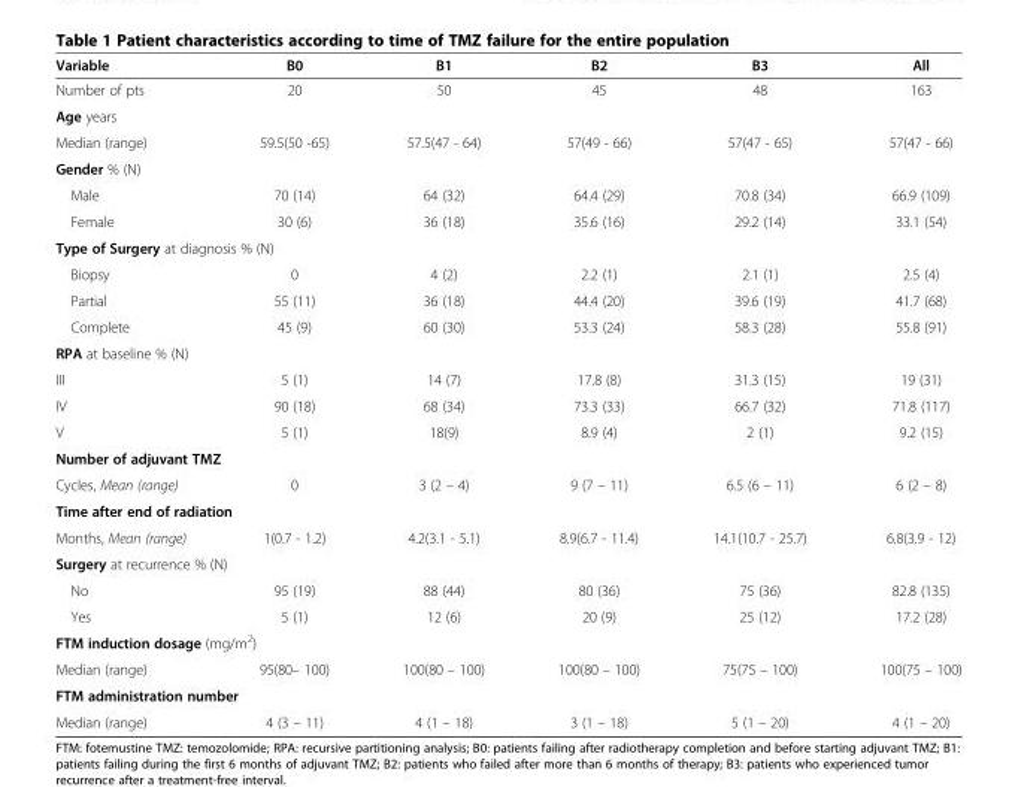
<table><thead><tr><td>Variable</td><td>B0</td><td>B1</td><td>B2</td><td>B3</td><td>All</td></tr></thead><tbody><tr><td>Number of pts</td><td>20</td><td>50</td><td>45</td><td>48</td><td>163</td></tr><tr><td colspan="6">Age years</td></tr><tr><td>Median (range)</td><td>59.5(50 -65)</td><td>57.5(47 - 64)</td><td>57(49 - 66)</td><td>57(47 - 65)</td><td>57(47 - 66)</td></tr><tr><td colspan="6">Gender % (N)</td></tr><tr><td>Male</td><td>70 (14)</td><td>64 (32)</td><td>64.4 (29)</td><td>70.8 (34)</td><td>66.9 (109)</td></tr><tr><td>Female</td><td>30 (6)</td><td>36 (18)</td><td>35.6 (16)</td><td>29.2 (14)</td><td>33.1 (54)</td></tr><tr><td colspan="6">Type of Surgery at diagnosis % (N)</td></tr><tr><td>Biopsy</td><td>0</td><td>4 (2)</td><td>2.2 (1)</td><td>2.1 (1)</td><td>2.5 (4)</td></tr><tr><td>Partial</td><td>55 (11)</td><td>36 (18)</td><td>44.4 (20)</td><td>39.6 (19)</td><td>41.7 (68)</td></tr><tr><td>Complete</td><td>45 (9)</td><td>60 (30)</td><td>53.3 (24)</td><td>58.3 (28)</td><td>55.8 (91)</td></tr><tr><td colspan="6">RPA at baseline % (N)</td></tr><tr><td>III</td><td>5 (1)</td><td>14 (7)</td><td>17.8 (8)</td><td>31.3 (15)</td><td>19 (31)</td></tr><tr><td>IV</td><td>90 (18)</td><td>68 (34)</td><td>73.3 (33)</td><td>66.7 (32)</td><td>71.8 (117)</td></tr><tr><td>V</td><td>5 (1)</td><td>18(9)</td><td>8.9 (4)</td><td>2 (1)</td><td>9.2 (15)</td></tr><tr><td colspan="6">Number of adjuvant TMZ</td></tr><tr><td>Cycles, Mean (range)</td><td>0</td><td>3 (2 – 4)</td><td>9 (7 – 11)</td><td>6.5 (6 – 11)</td><td>6 (2 – 8)</td></tr><tr><td colspan="6">Time after end of radiation</td></tr><tr><td>Months, Mean (range)</td><td>1(0.7 - 1.2)</td><td>4.2(3.1 - 5.1)</td><td>8.9(6.7 - 11.4)</td><td>14.1(10.7 - 25.7)</td><td>6.8(3.9 - 12)</td></tr><tr><td colspan="6">Surgery at recurrence % (N)</td></tr><tr><td>No</td><td>95 (19)</td><td>88 (44)</td><td>80 (36)</td><td>75 (36)</td><td>82.8 (135)</td></tr><tr><td>Yes</td><td>5 (1)</td><td>12 (6)</td><td>20 (9)</td><td>25 (12)</td><td>17.2 (28)</td></tr><tr><td colspan="6">FTM induction dosage (mg/m<sup>2</sup>)</td></tr><tr><td>Median (range)</td><td>95(80– 100)</td><td>100(80 – 100)</td><td>100(80 – 100)</td><td>75(75 – 100)</td><td>100(75 – 100)</td></tr><tr><td colspan="6">FTM administration number</td></tr><tr><td>Median (range)</td><td>4 (3 – 11)</td><td>4 (1 – 18)</td><td>3 (1 – 18)</td><td>5 (1 – 20)</td><td>4 (1 – 20)</td></tr></tbody></table>